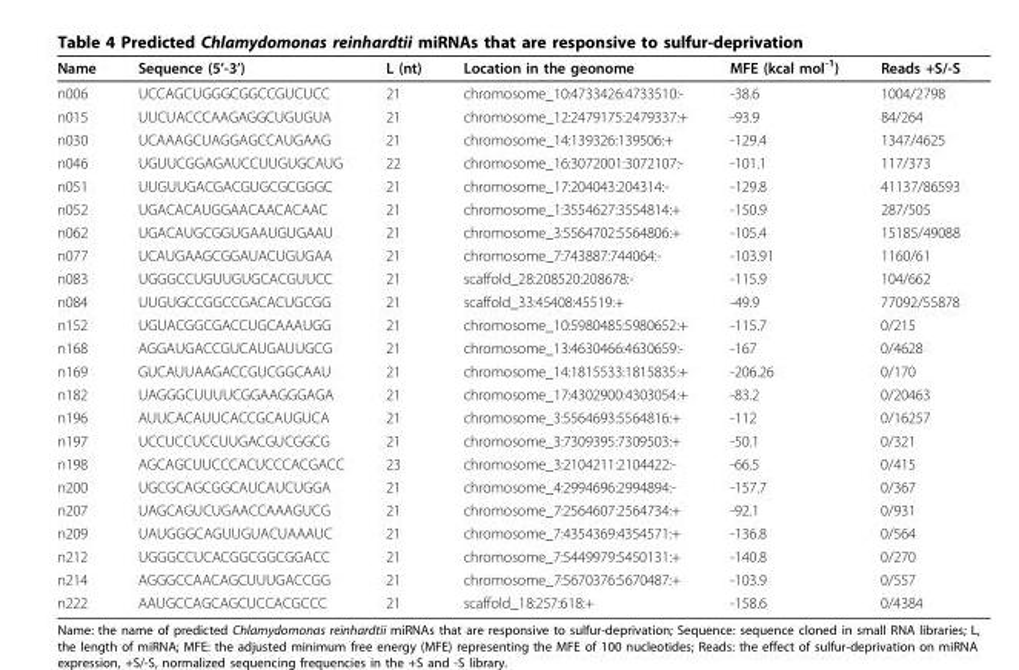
<table><thead><tr><td>Name</td><td>Sequence (5’-3’)</td><td>L (nt)</td><td>Location in the geonome</td><td>MFE (kcal mol<sup>-1</sup>)</td><td>Reads +S/-S</td></tr></thead><tbody><tr><td>n006</td><td>UCCAGCUGGGCGGCCGUCUCC</td><td>21</td><td>chromosome_10:4733426:4733510:-</td><td>-38.6</td><td>1004/2798</td></tr><tr><td>n015</td><td>UUCUACCCAAGAGGCUGUGUA</td><td>21</td><td>chromosome_12:2479175:2479337:+</td><td>-93.9</td><td>84/264</td></tr><tr><td>n030</td><td>UCAAAGCUAGGAGCCAUGAAG</td><td>21</td><td>chromosome_14:139326:139506:+</td><td>-129.4</td><td>1347/4625</td></tr><tr><td>n046</td><td>UGUUCGGAGAUCCUUGUGCAUG</td><td>22</td><td>chromosome_16:3072001:3072107:-</td><td>-101.1</td><td>117/373</td></tr><tr><td>n051</td><td>UUGUUGACGACGUGCGCGGGC</td><td>21</td><td>chromosome_17:204043:204314:-</td><td>-129.8</td><td>41137/86593</td></tr><tr><td>n052</td><td>UGACACAUGGAACAACACAAC</td><td>21</td><td>chromosome_1:3554627:3554814:+</td><td>-150.9</td><td>287/505</td></tr><tr><td>n062</td><td>UGACAUGCGGUGAAUGUGAAU</td><td>21</td><td>chromosome_3:5564702:5564806:+</td><td>-105.4</td><td>15185/49088</td></tr><tr><td>n077</td><td>UCAUGAAGCGGAUACUGUGAA</td><td>21</td><td>chromosome_7:743887:744064:-</td><td>-103.91</td><td>1160/61</td></tr><tr><td>n083</td><td>UGGGCCUGUUGUGCACGUUCC</td><td>21</td><td>scaffold_28:208520:208678:-</td><td>-115.9</td><td>104/662</td></tr><tr><td>n084</td><td>UUGUGCCGGCCGACACUGCGG</td><td>21</td><td>scaffold_33:45408:45519:+</td><td>-49.9</td><td>77092/55878</td></tr><tr><td>n152</td><td>UGUACGGCGACCUGCAAAUGG</td><td>21</td><td>chromosome_10:5980485:5980652:+</td><td>-115.7</td><td>0/215</td></tr><tr><td>n168</td><td>AGGAUGACCGUCAUGAUUGCG</td><td>21</td><td>chromosome_13:4630466:4630659:-</td><td>-167</td><td>0/4628</td></tr><tr><td>n169</td><td>GUCAUUAAGACCGUCGGCAAU</td><td>21</td><td>chromosome_14:1815533:1815835:+</td><td>-206.26</td><td>0/170</td></tr><tr><td>n182</td><td>UAGGGCUUUUCGGAAGGGAGA</td><td>21</td><td>chromosome_17:4302900:4303054:+</td><td>-83.2</td><td>0/20463</td></tr><tr><td>n196</td><td>AUUCACAUUCACCGCAUGUCA</td><td>21</td><td>chromosome_3:5564693:5564816:+</td><td>-112</td><td>0/16257</td></tr><tr><td>n197</td><td>UCCUCCUCCUUGACGUCGGCG</td><td>21</td><td>chromosome_3:7309395:7309503:+</td><td>-50.1</td><td>0/321</td></tr><tr><td>n198</td><td>AGCAGCUUCCCACUCCCACGACC</td><td>23</td><td>chromosome_3:2104211:2104422:-</td><td>-66.5</td><td>0/415</td></tr><tr><td>n200</td><td>UGCGCAGCGGCAUCAUCUGGA</td><td>21</td><td>chromosome_4:2994696:2994894:-</td><td>-157.7</td><td>0/367</td></tr><tr><td>n207</td><td>UAGCAGUCUGAACCAAAGUCG</td><td>21</td><td>chromosome_7:2564607:2564734:+</td><td>-92.1</td><td>0/931</td></tr><tr><td>n209</td><td>UAUGGGCAGUUGUACUAAAUC</td><td>21</td><td>chromosome_7:4354369:4354571:+</td><td>-136.8</td><td>0/564</td></tr><tr><td>n212</td><td>UGGGCCUCACGGCGGCGGACC</td><td>21</td><td>chromosome_7:5449979:5450131:+</td><td>-140.8</td><td>0/270</td></tr><tr><td>n214</td><td>AGGGCCAACAGCUUUGACCGG</td><td>21</td><td>chromosome_7:5670376:5670487:+</td><td>-103.9</td><td>0/557</td></tr><tr><td>n222</td><td>AAUGCCAGCAGCUCCACGCCC</td><td>21</td><td>scaffold_18:257:618:+</td><td>-158.6</td><td>0/4384</td></tr></tbody></table>